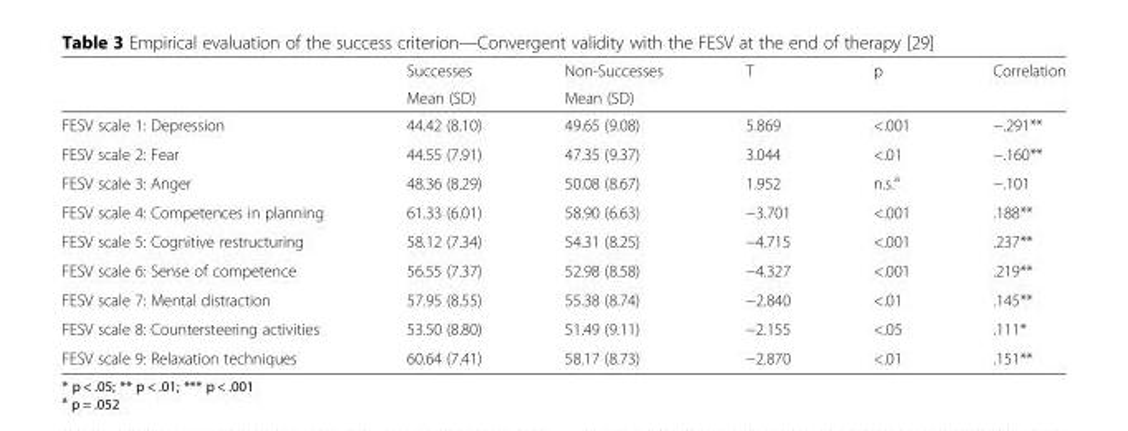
<table><thead><tr><td rowspan="2"></td><td rowspan="2">Successes Mean (SD)</td><td rowspan="2">Non-Successes Mean (SD)</td><td rowspan="2">T</td><td rowspan="2">p</td><td rowspan="2">Correlation</td></tr><tr></tr></thead><tbody><tr><td>FESV scale 1: Depression</td><td>44.42 (8.10)</td><td>49.65 (9.08)</td><td>5.869</td><td>&lt;.001</td><td>−.291**</td></tr><tr><td>FESV scale 2: Fear</td><td>44.55 (7.91)</td><td>47.35 (9.37)</td><td>3.044</td><td>&lt;.01</td><td>−.160**</td></tr><tr><td>FESV scale 3: Anger</td><td>48.36 (8.29)</td><td>50.08 (8.67)</td><td>1.952</td><td>n.s.<sup>a</sup></td><td>−.101</td></tr><tr><td>FESV scale 4: Competences in planning</td><td>61.33 (6.01)</td><td>58.90 (6.63)</td><td>−3.701</td><td>&lt;.001</td><td>.188**</td></tr><tr><td>FESV scale 5: Cognitive restructuring</td><td>58.12 (7.34)</td><td>54.31 (8.25)</td><td>−4.715</td><td>&lt;.001</td><td>.237**</td></tr><tr><td>FESV scale 6: Sense of competence</td><td>56.55 (7.37)</td><td>52.98 (8.58)</td><td>−4.327</td><td>&lt;.001</td><td>.219**</td></tr><tr><td>FESV scale 7: Mental distraction</td><td>57.95 (8.55)</td><td>55.38 (8.74)</td><td>−2.840</td><td>&lt;.01</td><td>.145**</td></tr><tr><td>FESV scale 8: Countersteering activities</td><td>53.50 (8.80)</td><td>51.49 (9.11)</td><td>−2.155</td><td>&lt;.05</td><td>.111*</td></tr><tr><td>FESV scale 9: Relaxation techniques</td><td>60.64 (7.41)</td><td>58.17 (8.73)</td><td>−2.870</td><td>&lt;.01</td><td>.151**</td></tr></tbody></table>